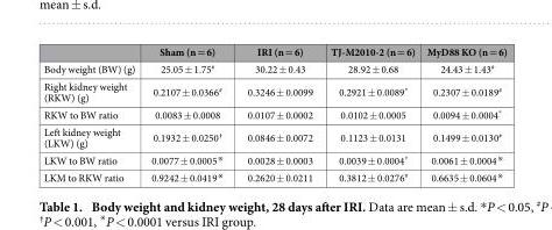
<table><thead><tr><td></td><td>Sham (n = 6)</td><td>IRI (n = 6)</td><td>TJ-M2010-2 (n = 6)</td><td>MyD88 KO (n = 6)</td></tr></thead><tbody><tr><td>Body weight (BW) (g)</td><td>25.05 ± 1.75#</td><td>30.22 ± 0.43</td><td>28.92 ± 0.68</td><td>24.43 ± 1.43#</td></tr><tr><td>Right kidney weight (RKW) (g)</td><td>0.2107 ± 0.0366#</td><td>0.3246 ± 0.0099</td><td>0.2921 ± 0.0089*</td><td>0.2307 ± 0.0189#</td></tr><tr><td>RKW to BW ratio</td><td>0.0083 ± 0.0008</td><td>0.0107 ± 0.0002</td><td>0.0102 ± 0.0005</td><td>0.0094 ± 0.0004*</td></tr><tr><td>Left kidney weight (LKW) (g)</td><td>0.1932 ± 0.0250†</td><td>0.0846 ± 0.0072</td><td>0.1123 ± 0.0131</td><td>0.1499 ± 0.0130#</td></tr><tr><td>LKW to BW ratio</td><td>0.0077 ± 0.0005※</td><td>0.0028 ± 0.0003</td><td>0.0039 ± 0.0004*</td><td>0.0061 ± 0.0004※</td></tr><tr><td>LKM to RKW ratio</td><td>0.9242 ± 0.0419※</td><td>0.2620 ± 0.0211</td><td>0.3812 ± 0.0276#</td><td>0.6635 ± 0.0604※</td></tr></tbody></table>